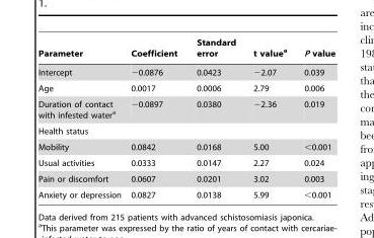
<table><thead><tr><td>Parameter</td><td>Coefficient</td><td>Standard error</td><td>t value<sup>a</sup></td><td>P value</td></tr></thead><tbody><tr><td>Intercept</td><td>−0.0876</td><td>0.0423</td><td>−2.07</td><td>0.039</td></tr><tr><td>Age</td><td>0.0017</td><td>0.0006</td><td>2.79</td><td>0.006</td></tr><tr><td>Duration of contact with infested water<sup>a</sup></td><td>−0.0897</td><td>0.0380</td><td>−2.36</td><td>0.019</td></tr><tr><td colspan="5">Health status</td></tr><tr><td>Mobility</td><td>0.0842</td><td>0.0168</td><td>5.00</td><td>&lt;0.001</td></tr><tr><td>Usual activities</td><td>0.0333</td><td>0.0147</td><td>2.27</td><td>0.024</td></tr><tr><td>Pain or discomfort</td><td>0.0607</td><td>0.0201</td><td>3.02</td><td>0.003</td></tr><tr><td>Anxiety or depression</td><td>0.0827</td><td>0.0138</td><td>5.99</td><td>&lt;0.001</td></tr></tbody></table>